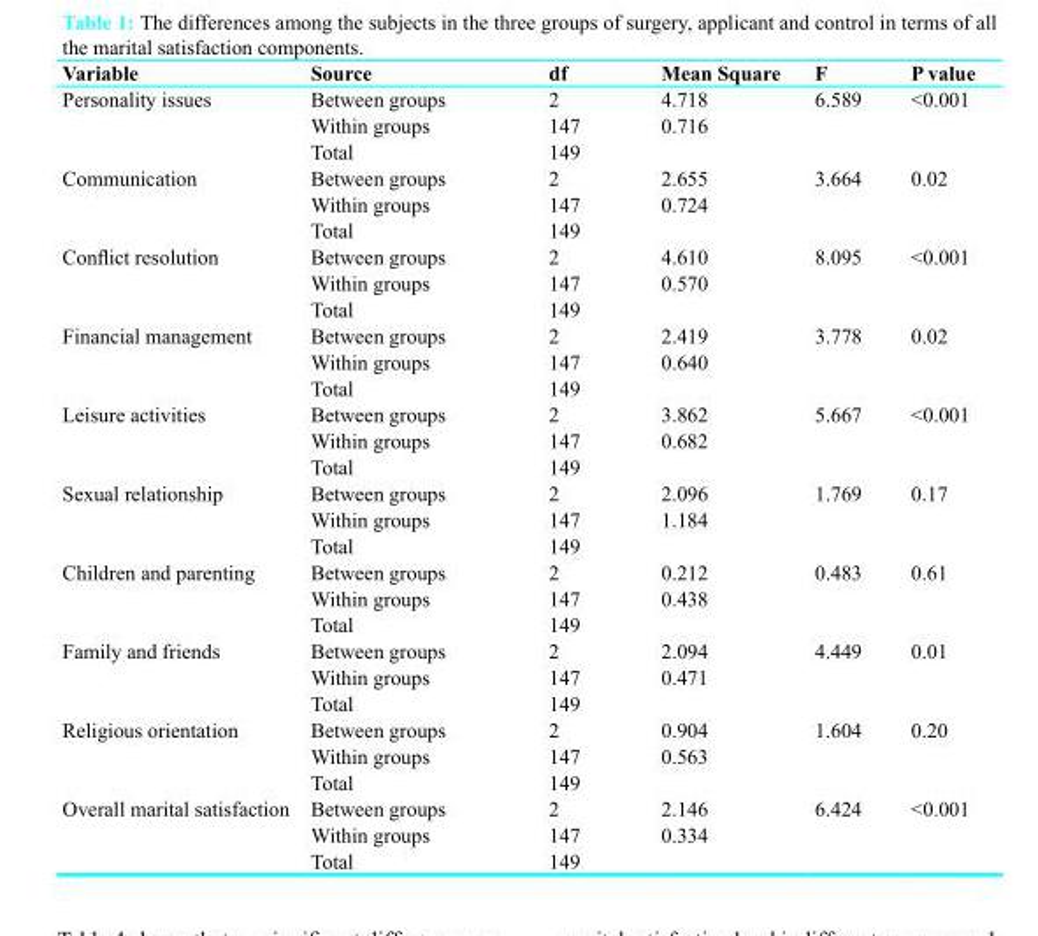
<table><thead><tr><td>Variable</td><td>Source</td><td>df</td><td>Mean Square</td><td>F</td><td>P value</td></tr></thead><tbody><tr><td rowspan="3">Personality issues</td><td>Between groups</td><td>2</td><td>4.718</td><td rowspan="3">6.589</td><td rowspan="3">&lt;0.001</td></tr><tr><td>Within groups</td><td>147</td><td>0.716</td></tr><tr><td>Total</td><td>149</td><td></td></tr><tr><td rowspan="3">Communication</td><td>Between groups</td><td>2</td><td>2.655</td><td rowspan="3">3.664</td><td rowspan="3">0.02</td></tr><tr><td>Within groups</td><td>147</td><td>0.724</td></tr><tr><td>Total</td><td>149</td><td></td></tr><tr><td rowspan="3">Conflict resolution</td><td>Between groups</td><td>2</td><td>4.610</td><td rowspan="3">8.095</td><td rowspan="3">&lt;0.001</td></tr><tr><td>Within groups</td><td>147</td><td>0.570</td></tr><tr><td>Total</td><td>149</td><td></td></tr><tr><td rowspan="3">Financial management</td><td>Between groups</td><td>2</td><td>2.419</td><td rowspan="3">3.778</td><td rowspan="3">0.02</td></tr><tr><td>Within groups</td><td>147</td><td>0.640</td></tr><tr><td>Total</td><td>149</td><td></td></tr><tr><td rowspan="3">Leisure activities</td><td>Between groups</td><td>2</td><td>3.862</td><td rowspan="3">5.667</td><td rowspan="3">&lt;0.001</td></tr><tr><td>Within groups</td><td>147</td><td>0.682</td></tr><tr><td>Total</td><td>149</td><td></td></tr><tr><td rowspan="3">Sexual relationship</td><td>Between groups</td><td>2</td><td>2.096</td><td rowspan="3">1.769</td><td rowspan="3">0.17</td></tr><tr><td>Within groups</td><td>147</td><td>1.184</td></tr><tr><td>Total</td><td>149</td><td></td></tr><tr><td rowspan="3">Children and parenting</td><td>Between groups</td><td>2</td><td>0.212</td><td rowspan="3">0.483</td><td rowspan="3">0.61</td></tr><tr><td>Within groups</td><td>147</td><td>0.438</td></tr><tr><td>Total</td><td>149</td><td></td></tr><tr><td rowspan="3">Family and friends</td><td>Between groups</td><td>2</td><td>2.094</td><td rowspan="3">4.449</td><td rowspan="3">0.01</td></tr><tr><td>Within groups</td><td>147</td><td>0.471</td></tr><tr><td>Total</td><td>149</td><td></td></tr><tr><td rowspan="3">Religious orientation</td><td>Between groups</td><td>2</td><td>0.904</td><td rowspan="3">1.604</td><td rowspan="3">0.20</td></tr><tr><td>Within groups</td><td>147</td><td>0.563</td></tr><tr><td>Total</td><td>149</td><td></td></tr><tr><td rowspan="3">Overall marital satisfaction</td><td>Between groups</td><td>2</td><td>2.146</td><td rowspan="3">6.424</td><td rowspan="3">&lt;0.001</td></tr><tr><td>Within groups</td><td>147</td><td>0.334</td></tr><tr><td>Total</td><td>149</td><td></td></tr></tbody></table>